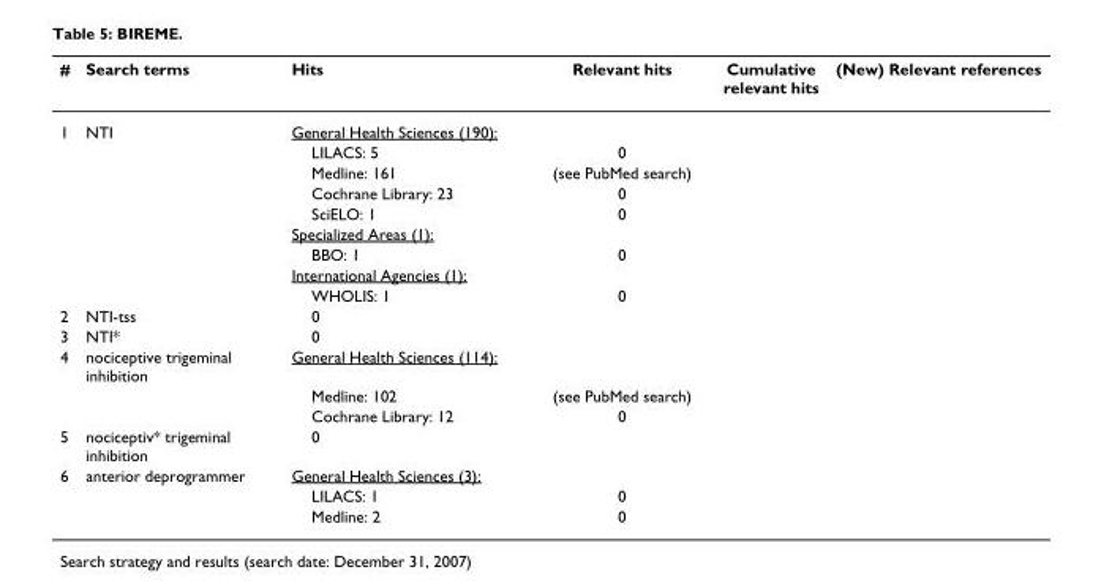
<table><thead><tr><td>#</td><td>Search terms</td><td>Hits</td><td>Relevant hits</td><td>Cumulative relevant hits</td><td>(New) Relevant references</td></tr></thead><tbody><tr><td rowspan="9">1</td><td>NTI</td><td>General Health Sciences (190):</td><td></td><td></td><td></td></tr><tr><td></td><td>LILACS: 5</td><td>0</td><td></td><td></td></tr><tr><td></td><td>Medline: 161</td><td>(see PubMed search)</td><td></td><td></td></tr><tr><td></td><td>Cochrane Library: 23</td><td>0</td><td></td><td></td></tr><tr><td></td><td>SciELO: 1</td><td>0</td><td></td><td></td></tr><tr><td></td><td>Specialized Areas (1):</td><td></td><td></td><td></td></tr><tr><td></td><td>BBO: 1</td><td>0</td><td></td><td></td></tr><tr><td></td><td>International Agencies (1):</td><td></td><td></td><td></td></tr><tr><td></td><td>WHOLIS: 1</td><td>0</td><td></td><td></td></tr><tr><td>2</td><td>NTI-tss</td><td>0</td><td></td><td></td><td></td></tr><tr><td>3</td><td>NTI*</td><td>0</td><td></td><td></td><td></td></tr><tr><td rowspan="3">4</td><td>nociceptive trigeminal inhibition</td><td>General Health Sciences (114):</td><td></td><td></td><td></td></tr><tr><td></td><td>Medline: 102</td><td>(see PubMed search)</td><td></td><td></td></tr><tr><td></td><td>Cochrane Library: 12</td><td>0</td><td></td><td></td></tr><tr><td>5</td><td>nociceptiv* trigeminal inhibition</td><td>0</td><td></td><td></td><td></td></tr><tr><td rowspan="3">6</td><td>anterior deprogrammer</td><td>General Health Sciences (3):</td><td></td><td></td><td></td></tr><tr><td></td><td>LILACS: 1</td><td>0</td><td></td><td></td></tr><tr><td></td><td>Medline: 2</td><td>0</td><td></td><td></td></tr></tbody></table>